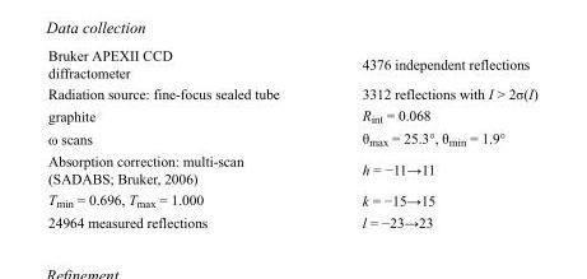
<table><tbody><tr><td>Bruker APEXII CCD diffractometer</td><td>4376 independent reflections</td></tr><tr><td>Radiation source: fine-focus sealed tube</td><td>3312 reflections with I &gt; 2σ(I)</td></tr><tr><td>graphite</td><td>R<sub>int</sub> = 0.068</td></tr><tr><td>ω scans</td><td>θ<sub>max</sub> = 25.3°, θ<sub>min</sub> = 1.9°</td></tr><tr><td>Absorption correction: multi-scan (SADABS; Bruker, 2006)</td><td>h = −11→11</td></tr><tr><td>T<sub>min</sub> = 0.696, T<sub>max</sub> = 1.000</td><td>k = −15→15</td></tr><tr><td>24964 measured reflections</td><td>l = −23→23</td></tr></tbody></table>